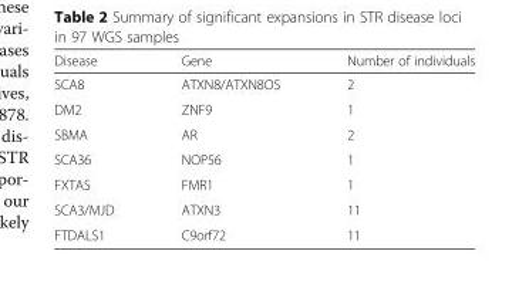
<table><thead><tr><td>Disease</td><td>Gene</td><td>Number of individuals</td></tr></thead><tbody><tr><td>SCA8</td><td>ATXN8/ATXN8OS</td><td>2</td></tr><tr><td>DM2</td><td>ZNF9</td><td>1</td></tr><tr><td>SBMA</td><td>AR</td><td>2</td></tr><tr><td>SCA36</td><td>NOP56</td><td>1</td></tr><tr><td>FXTAS</td><td>FMR1</td><td>1</td></tr><tr><td>SCA3/MJD</td><td>ATXN3</td><td>11</td></tr><tr><td>FTDALS1</td><td>C9orf72</td><td>11</td></tr></tbody></table>